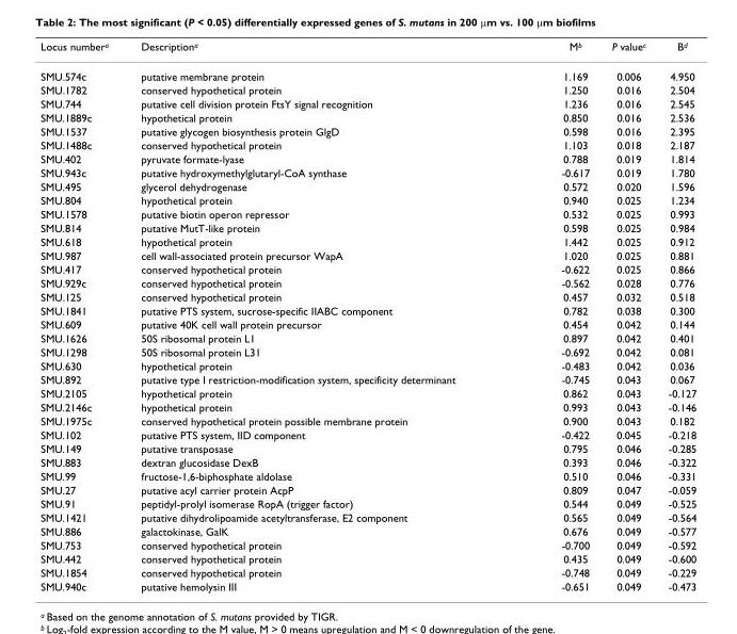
<table><thead><tr><td>Locus number<sup>a</sup></td><td>Description<sup>a</sup></td><td>M<sup>b</sup></td><td>P value<sup>c</sup></td><td>B<sup>d</sup></td></tr></thead><tbody><tr><td>SMU.574c</td><td>putative membrane protein</td><td>1.169</td><td>0.006</td><td>4.950</td></tr><tr><td>SMU.1782</td><td>conserved hypothetical protein</td><td>1.250</td><td>0.016</td><td>2.504</td></tr><tr><td>SMU.744</td><td>putative cell division protein FtsY signal recognition</td><td>1.236</td><td>0.016</td><td>2.545</td></tr><tr><td>SMU.1889c</td><td>hypothetical protein</td><td>0.850</td><td>0.016</td><td>2.536</td></tr><tr><td>SMU.1537</td><td>putative glycogen biosynthesis protein GlgD</td><td>0.598</td><td>0.016</td><td>2.395</td></tr><tr><td>SMU.1488c</td><td>conserved hypothetical protein</td><td>1.103</td><td>0.018</td><td>2.187</td></tr><tr><td>SMU.402</td><td>pyruvate formate-lyase</td><td>0.788</td><td>0.019</td><td>1.814</td></tr><tr><td>SMU.943c</td><td>putative hydroxymethylglutaryl-CoA synthase</td><td>-0.617</td><td>0.019</td><td>1.780</td></tr><tr><td>SMU.495</td><td>glycerol dehydrogenase</td><td>0.572</td><td>0.020</td><td>1.596</td></tr><tr><td>SMU.804</td><td>hypothetical protein</td><td>0.940</td><td>0.025</td><td>1.234</td></tr><tr><td>SMU.1578</td><td>putative biotin operon repressor</td><td>0.532</td><td>0.025</td><td>0.993</td></tr><tr><td>SMU.814</td><td>putative MutT-like protein</td><td>0.598</td><td>0.025</td><td>0.984</td></tr><tr><td>SMU.618</td><td>hypothetical protein</td><td>1.442</td><td>0.025</td><td>0.912</td></tr><tr><td>SMU.987</td><td>cell wall-associated protein precursor WapA</td><td>1.020</td><td>0.025</td><td>0.881</td></tr><tr><td>SMU.417</td><td>conserved hypothetical protein</td><td>-0.622</td><td>0.025</td><td>0.866</td></tr><tr><td>SMU.929c</td><td>conserved hypothetical protein</td><td>-0.562</td><td>0.028</td><td>0.776</td></tr><tr><td>SMU.125</td><td>conserved hypothetical protein</td><td>0.457</td><td>0.032</td><td>0.518</td></tr><tr><td>SMU.1841</td><td>putative PTS system, sucrose-specific IIABC component</td><td>0.782</td><td>0.038</td><td>0.300</td></tr><tr><td>SMU.609</td><td>putative 40K cell wall protein precursor</td><td>0.454</td><td>0.042</td><td>0.144</td></tr><tr><td>SMU.1626</td><td>50S ribosomal protein L1</td><td>0.897</td><td>0.042</td><td>0.401</td></tr><tr><td>SMU.1298</td><td>50S ribosomal protein L31</td><td>-0.692</td><td>0.042</td><td>0.081</td></tr><tr><td>SMU.630</td><td>hypothetical protein</td><td>-0.483</td><td>0.042</td><td>0.036</td></tr><tr><td>SMU.892</td><td>putative type I restriction-modification system, specificity determinant</td><td>-0.745</td><td>0.043</td><td>0.067</td></tr><tr><td>SMU.2105</td><td>hypothetical protein</td><td>0.862</td><td>0.043</td><td>-0.127</td></tr><tr><td>SMU.2146c</td><td>hypothetical protein</td><td>0.993</td><td>0.043</td><td>-0.146</td></tr><tr><td>SMU.1975c</td><td>conserved hypothetical protein possible membrane protein</td><td>0.900</td><td>0.043</td><td>0.182</td></tr><tr><td>SMU.102</td><td>putative PTS system, IID component</td><td>-0.422</td><td>0.045</td><td>-0.218</td></tr><tr><td>SMU.149</td><td>putative transposase</td><td>0.795</td><td>0.046</td><td>-0.285</td></tr><tr><td>SMU.883</td><td>dextran glucosidase DexB</td><td>0.393</td><td>0.046</td><td>-0.322</td></tr><tr><td>SMU.99</td><td>fructose-1,6-biphosphate aldolase</td><td>0.510</td><td>0.046</td><td>-0.331</td></tr><tr><td>SMU.27</td><td>putative acyl carrier protein AcpP</td><td>0.809</td><td>0.047</td><td>-0.059</td></tr><tr><td>SMU.91</td><td>peptidyl-prolyl isomerase RopA (trigger factor)</td><td>0.544</td><td>0.049</td><td>-0.525</td></tr><tr><td>SMU.1421</td><td>putative dihydrolipoamide acetyltransferase, E2 component</td><td>0.565</td><td>0.049</td><td>-0.564</td></tr><tr><td>SMU.886</td><td>galactokinase, GalK</td><td>0.676</td><td>0.049</td><td>-0.577</td></tr><tr><td>SMU.753</td><td>conserved hypothetical protein</td><td>-0.700</td><td>0.049</td><td>-0.592</td></tr><tr><td>SMU.442</td><td>conserved hypothetical protein</td><td>0.435</td><td>0.049</td><td>-0.600</td></tr><tr><td>SMU.1854</td><td>conserved hypothetical protein</td><td>-0.748</td><td>0.049</td><td>-0.229</td></tr><tr><td>SMU.940c</td><td>putative hemolysin III</td><td>-0.651</td><td>0.049</td><td>-0.473</td></tr></tbody></table>